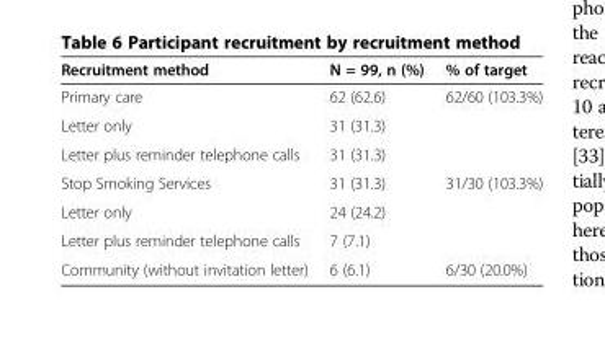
<table><thead><tr><td>Recruitment method</td><td>N = 99, n (%)</td><td>% of target</td></tr></thead><tbody><tr><td>Primary care</td><td>62 (62.6)</td><td>62/60 (103.3%)</td></tr><tr><td>Letter only</td><td>31 (31.3)</td><td></td></tr><tr><td>Letter plus reminder telephone calls</td><td>31 (31.3)</td><td></td></tr><tr><td>Stop Smoking Services</td><td>31 (31.3)</td><td>31/30 (103.3%)</td></tr><tr><td>Letter only</td><td>24 (24.2)</td><td></td></tr><tr><td>Letter plus reminder telephone calls</td><td>7 (7.1)</td><td></td></tr><tr><td>Community (without invitation letter)</td><td>6 (6.1)</td><td>6/30 (20.0%)</td></tr></tbody></table>